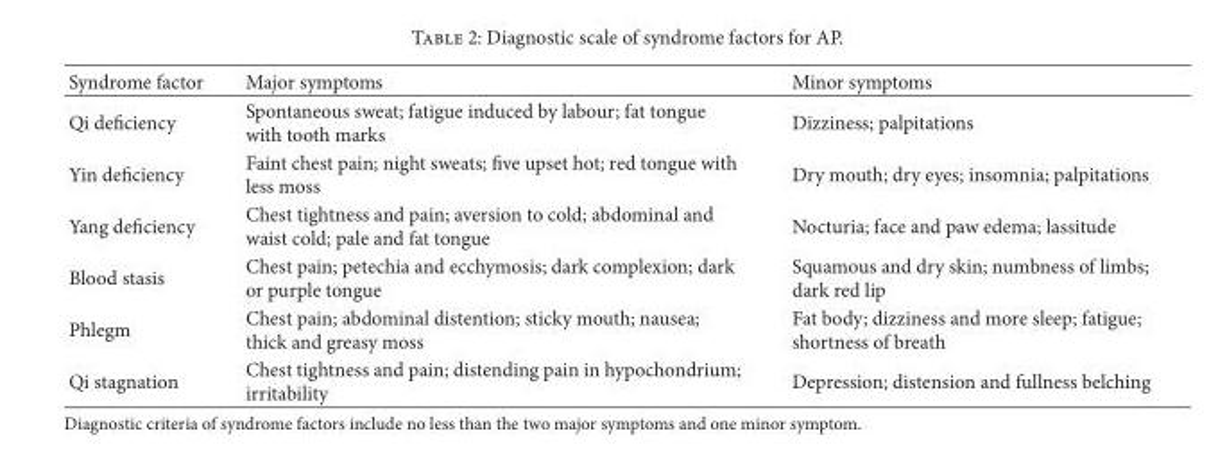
<table><thead><tr><td>Syndrome factor</td><td>Major symptoms</td><td>Minor symptoms</td></tr></thead><tbody><tr><td>Qi deficiency</td><td>Spontaneous sweat; fatigue induced by labour; fat tongue with tooth marks</td><td>Dizziness; palpitations</td></tr><tr><td>Yin deficiency</td><td>Faint chest pain; night sweats; five upset hot; red tongue with less moss</td><td>Dry mouth; dry eyes; insomnia; palpitations</td></tr><tr><td>Yang deficiency</td><td>Chest tightness and pain; aversion to cold; abdominal and waist cold; pale and fat tongue</td><td>Nocturia; face and paw edema; lassitude</td></tr><tr><td>Blood stasis</td><td>Chest pain; petechia and ecchymosis; dark complexion; dark or purple tongue</td><td>Squamous and dry skin; numbness of limbs; dark red lip</td></tr><tr><td>Phlegm</td><td>Chest pain; abdominal distention; sticky mouth; nausea; thick and greasy moss</td><td>Fat body; dizziness and more sleep; fatigue; shortness of breath</td></tr><tr><td>Qi stagnation</td><td>Chest tightness and pain; distending pain in hypochondrium; irritability</td><td>Depression; distension and fullness belching</td></tr></tbody></table>